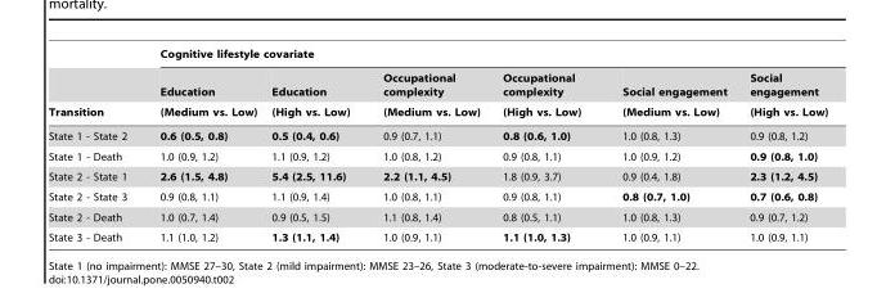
<table><thead><tr><td rowspan="3">Transition</td><td colspan="6">Cognitive lifestyle covariate</td></tr><tr><td rowspan="2">Education (Medium vs. Low)</td><td rowspan="2">Education (High vs. Low)</td><td rowspan="2">Occupational complexity (Medium vs. Low)</td><td rowspan="2">Occupational complexity (High vs. Low)</td><td rowspan="2">Social engagement (Medium vs. Low)</td><td rowspan="2">Social engagement (High vs. Low)</td></tr><tr></tr></thead><tbody><tr><td>State 1 - State 2</td><td>0.6 (0.5, 0.8)</td><td>0.5 (0.4, 0.6)</td><td>0.9 (0.7, 1.1)</td><td>0.8 (0.6, 1.0)</td><td>1.0 (0.8, 1.3)</td><td>0.9 (0.8, 1.2)</td></tr><tr><td>State 1 - Death</td><td>1.0 (0.9, 1.2)</td><td>1.1 (0.9, 1.2)</td><td>1.0 (0.8, 1.2)</td><td>0.9 (0.8, 1.1)</td><td>1.0 (0.9, 1.2)</td><td>0.9 (0.8, 1.0)</td></tr><tr><td>State 2 - State 1</td><td>2.6 (1.5, 4.8)</td><td>5.4 (2.5, 11.6)</td><td>2.2 (1.1, 4.5)</td><td>1.8 (0.9, 3.7)</td><td>0.9 (0.4, 1.8)</td><td>2.3 (1.2, 4.5)</td></tr><tr><td>State 2 - State 3</td><td>0.9 (0.8, 1.1)</td><td>1.1 (0.9, 1.4)</td><td>1.0 (0.8, 1.1)</td><td>0.9 (0.8, 1.1)</td><td>0.8 (0.7, 1.0)</td><td>0.7 (0.6, 0.8)</td></tr><tr><td>State 2 - Death</td><td>1.0 (0.7, 1.4)</td><td>0.9 (0.5, 1.5)</td><td>1.1 (0.8, 1.4)</td><td>0.8 (0.5, 1.1)</td><td>1.0 (0.8, 1.3)</td><td>0.9 (0.7, 1.2)</td></tr><tr><td>State 3 - Death</td><td>1.1 (1.0, 1.2)</td><td>1.3 (1.1, 1.4)</td><td>1.0 (0.9, 1.1)</td><td>1.1 (1.0, 1.3)</td><td>1.0 (0.9, 1.1)</td><td>1.0 (0.9, 1.1)</td></tr></tbody></table>